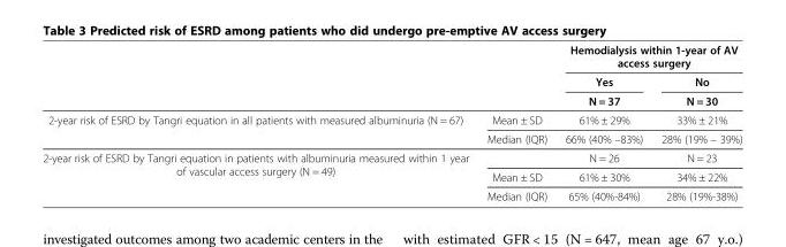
<table><thead><tr><td rowspan="3"></td><td rowspan="3"></td><td colspan="2">Hemodialysis within 1-year of AV access surgery</td></tr><tr><td rowspan="2">Yes N = 37</td><td rowspan="2">No N = 30</td></tr><tr></tr></thead><tbody><tr><td rowspan="2">2-year risk of ESRD by Tangri equation in all patients with measured albuminuria (N = 67)</td><td>Mean ± SD</td><td>61% ± 29%</td><td>33% ± 21%</td></tr><tr><td>Median (IQR)</td><td>66% (40% –83%)</td><td>28% (19% – 39%)</td></tr><tr><td rowspan="3">2-year risk of ESRD by Tangri equation in patients with albuminuria measured within 1 year of vascular access surgery (N = 49)</td><td></td><td>N = 26</td><td>N = 23</td></tr><tr><td>Mean ± SD</td><td>61% ± 30%</td><td>34% ± 22%</td></tr><tr><td>Median (IQR)</td><td>65% (40%-84%)</td><td>28% (19%-38%)</td></tr></tbody></table>